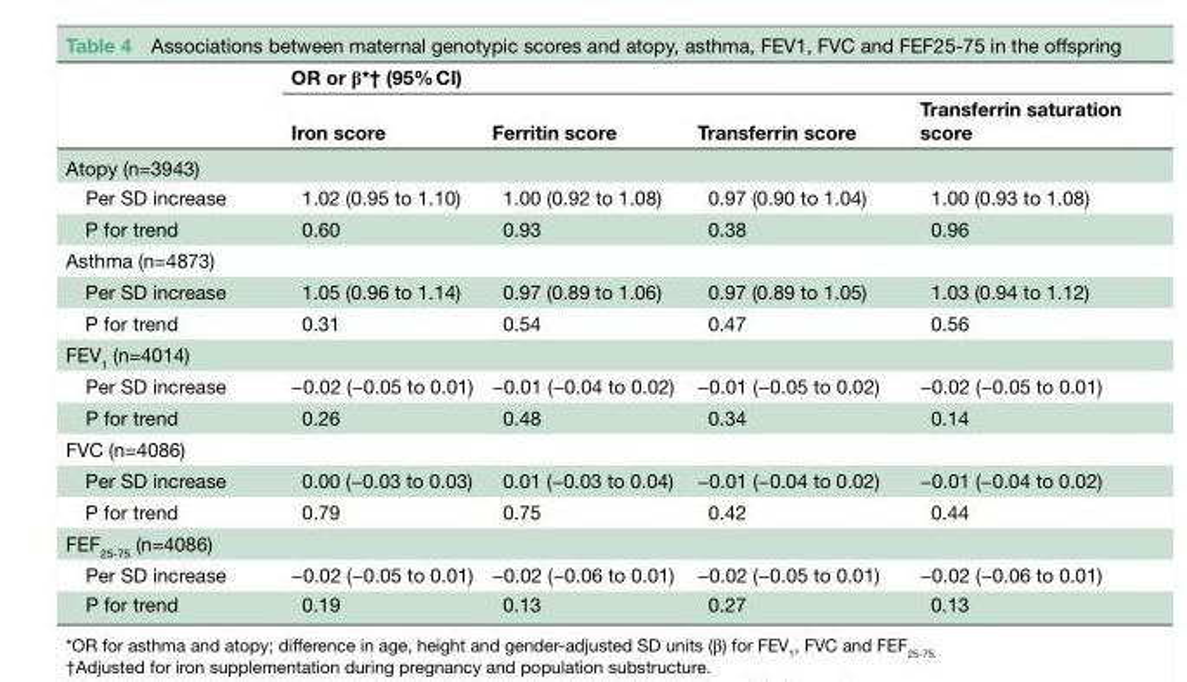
<table><thead><tr><td rowspan="2"></td><td colspan="4">OR or β*† (95% CI)</td></tr><tr><td>Iron score</td><td>Ferritin score</td><td>Transferrin score</td><td>Transferrin saturation score</td></tr></thead><tbody><tr><td colspan="5">Atopy (n=3943)</td></tr><tr><td>Per SD increase</td><td>1.02 (0.95 to 1.10)</td><td>1.00 (0.92 to 1.08)</td><td>0.97 (0.90 to 1.04)</td><td>1.00 (0.93 to 1.08)</td></tr><tr><td>P for trend</td><td>0.60</td><td>0.93</td><td>0.38</td><td>0.96</td></tr><tr><td colspan="5">Asthma (n=4873)</td></tr><tr><td>Per SD increase</td><td>1.05 (0.96 to 1.14)</td><td>0.97 (0.89 to 1.06)</td><td>0.97 (0.89 to 1.05)</td><td>1.03 (0.94 to 1.12)</td></tr><tr><td>P for trend</td><td>0.31</td><td>0.54</td><td>0.47</td><td>0.56</td></tr><tr><td colspan="5">FEV<sub>1</sub> (n=4014)</td></tr><tr><td>Per SD increase</td><td>−0.02 (−0.05 to 0.01)</td><td>−0.01 (−0.04 to 0.02)</td><td>−0.01 (−0.05 to 0.02)</td><td>−0.02 (−0.05 to 0.01)</td></tr><tr><td>P for trend</td><td>0.26</td><td>0.48</td><td>0.34</td><td>0.14</td></tr><tr><td colspan="5">FVC (n=4086)</td></tr><tr><td>Per SD increase</td><td>0.00 (−0.03 to 0.03)</td><td>0.01 (−0.03 to 0.04)</td><td>−0.01 (−0.04 to 0.02)</td><td>−0.01 (−0.04 to 0.02)</td></tr><tr><td>P for trend</td><td>0.79</td><td>0.75</td><td>0.42</td><td>0.44</td></tr><tr><td colspan="5">FEF<sub>25-75</sub> (n=4086)</td></tr><tr><td>Per SD increase</td><td>−0.02 (−0.05 to 0.01)</td><td>−0.02 (−0.06 to 0.01)</td><td>−0.02 (−0.05 to 0.01)</td><td>−0.02 (−0.06 to 0.01)</td></tr><tr><td>P for trend</td><td>0.19</td><td>0.13</td><td>0.27</td><td>0.13</td></tr></tbody></table>